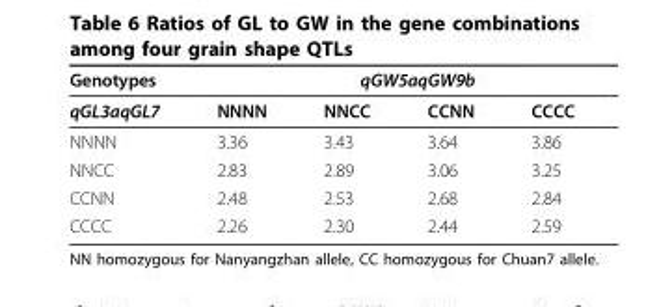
<table><thead><tr><td rowspan="2">Genotypes qGL3aqGL7</td><td colspan="4">qGW5aqGW9b</td></tr><tr><td>NNNN</td><td>NNCC</td><td>CCNN</td><td>CCCC</td></tr></thead><tbody><tr><td>NNNN</td><td>3.36</td><td>3.43</td><td>3.64</td><td>3.86</td></tr><tr><td>NNCC</td><td>2.83</td><td>2.89</td><td>3.06</td><td>3.25</td></tr><tr><td>CCNN</td><td>2.48</td><td>2.53</td><td>2.68</td><td>2.84</td></tr><tr><td>CCCC</td><td>2.26</td><td>2.30</td><td>2.44</td><td>2.59</td></tr></tbody></table>